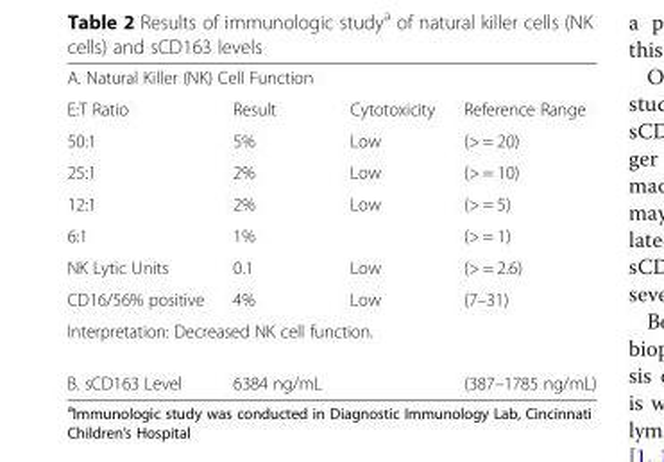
<table><tbody><tr><td colspan="4">A. Natural Killer (NK) Cell Function</td></tr><tr><td>E:T Ratio</td><td>Result</td><td>Cytotoxicity</td><td>Reference Range</td></tr><tr><td>50:1</td><td>5%</td><td>Low</td><td>(&gt; = 20)</td></tr><tr><td>25:1</td><td>2%</td><td>Low</td><td>(&gt; = 10)</td></tr><tr><td>12:1</td><td>2%</td><td>Low</td><td>(&gt; = 5)</td></tr><tr><td>6:1</td><td>1%</td><td></td><td>(&gt; = 1)</td></tr><tr><td>NK Lytic Units</td><td>0.1</td><td>Low</td><td>(&gt; = 2.6)</td></tr><tr><td>CD16/56% positive</td><td>4%</td><td>Low</td><td>(7–31)</td></tr><tr><td colspan="4">Interpretation: Decreased NK cell function.</td></tr><tr><td>B. sCD163 Level</td><td>6384 ng/mL</td><td></td><td>(387–1785 ng/mL)</td></tr></tbody></table>